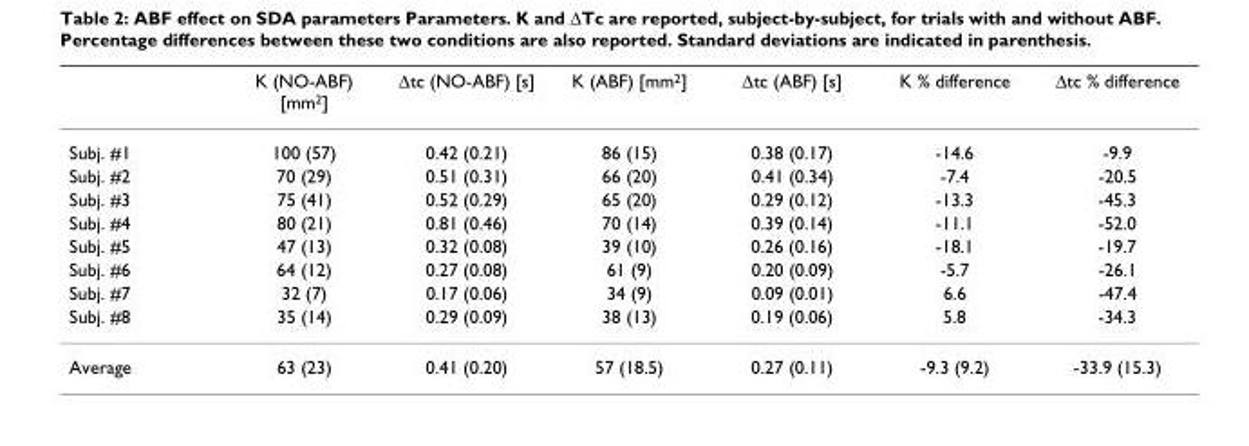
<table><thead><tr><td></td><td>K (NO-ABF) [mm<sup>2</sup>]</td><td>∆tc (NO-ABF) [s]</td><td>K (ABF) [mm<sup>2</sup>]</td><td>∆tc (ABF) [s]</td><td>K % difference</td><td>∆tc % difference</td></tr></thead><tbody><tr><td>Subj. #1</td><td>100 (57)</td><td>0.42 (0.21)</td><td>86 (15)</td><td>0.38 (0.17)</td><td>-14.6</td><td>-9.9</td></tr><tr><td>Subj. #2</td><td>70 (29)</td><td>0.51 (0.31)</td><td>66 (20)</td><td>0.41 (0.34)</td><td>-7.4</td><td>-20.5</td></tr><tr><td>Subj. #3</td><td>75 (41)</td><td>0.52 (0.29)</td><td>65 (20)</td><td>0.29 (0.12)</td><td>-13.3</td><td>-45.3</td></tr><tr><td>Subj. #4</td><td>80 (21)</td><td>0.81 (0.46)</td><td>70 (14)</td><td>0.39 (0.14)</td><td>-11.1</td><td>-52.0</td></tr><tr><td>Subj. #5</td><td>47 (13)</td><td>0.32 (0.08)</td><td>39 (10)</td><td>0.26 (0.16)</td><td>-18.1</td><td>-19.7</td></tr><tr><td>Subj. #6</td><td>64 (12)</td><td>0.27 (0.08)</td><td>61 (9)</td><td>0.20 (0.09)</td><td>-5.7</td><td>-26.1</td></tr><tr><td>Subj. #7</td><td>32 (7)</td><td>0.17 (0.06)</td><td>34 (9)</td><td>0.09 (0.01)</td><td>6.6</td><td>-47.4</td></tr><tr><td>Subj. #8</td><td>35 (14)</td><td>0.29 (0.09)</td><td>38 (13)</td><td>0.19 (0.06)</td><td>5.8</td><td>-34.3</td></tr><tr><td>Average</td><td>63 (23)</td><td>0.41 (0.20)</td><td>57 (18.5)</td><td>0.27 (0.11)</td><td>-9.3 (9.2)</td><td>-33.9 (15.3)</td></tr></tbody></table>